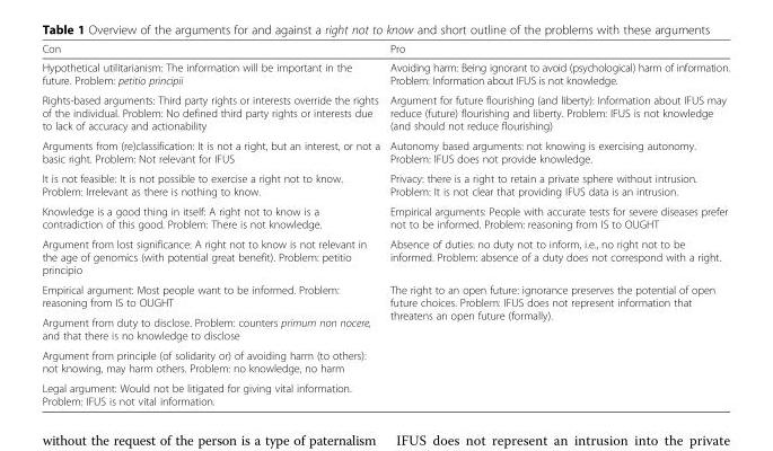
<table><thead><tr><td>Con</td><td>Pro</td></tr></thead><tbody><tr><td>Hypothetical utilitarianism: The information will be important in the future. Problem: petitio principii</td><td>Avoiding harm: Being ignorant to avoid (psychological) harm of information. Problem: Information about IFUS is not knowledge.</td></tr><tr><td>Rights-based arguments: Third party rights or interests override the rights of the individual. Problem: No defined third party rights or interests due to lack of accuracy and actionability</td><td>Argument for future flourishing (and liberty): Information about IFUS may reduce (future) flourishing and liberty. Problem: IFUS is not knowledge (and should not reduce flourishing)</td></tr><tr><td>Arguments from (re)classification: It is not a right, but an interest, or not a basic right. Problem: Not relevant for IFUS</td><td>Autonomy based arguments: not knowing is exercising autonomy. Problem: IFUS does not provide knowledge.</td></tr><tr><td>It is not feasible: It is not possible to exercise a right not to know. Problem: Irrelevant as there is nothing to know.</td><td>Privacy: there is a right to retain a private sphere without intrusion. Problem: It is not clear that providing IFUS data is an intrusion.</td></tr><tr><td>Knowledge is a good thing in itself: A right not to know is a contradiction of this good. Problem: There is not knowledge.</td><td>Empirical arguments: People with accurate tests for severe diseases prefer not to be informed. Problem: reasoning from IS to OUGHT</td></tr><tr><td>Argument from lost significance: A right not to know is not relevant in the age of genomics (with potential great benefit). Problem: petitio principio</td><td>Absence of duties: no duty not to inform, i.e., no right not to be informed. Problem: absence of a duty does not correspond with a right.</td></tr><tr><td>Empirical argument: Most people want to be informed. Problem: reasoning from IS to OUGHT</td><td rowspan="2">The right to an open future: ignorance preserves the potential of open future choices. Problem: IFUS does not represent information that threatens an open future (formally).</td></tr><tr><td>Argument from duty to disclose. Problem: counters primum non nocere, and that there is no knowledge to disclose</td></tr><tr><td colspan="2">Argument from principle (of solidarity or) of avoiding harm (to others): not knowing, may harm others. Problem: no knowledge, no harm</td></tr><tr><td>Legal argument: Would not be litigated for giving vital information. Problem: IFUS is not vital information.</td><td></td></tr></tbody></table>